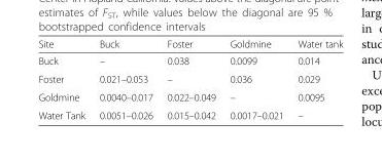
<table><thead><tr><td>Site</td><td>Buck</td><td>Foster</td><td>Goldmine</td><td>Water tank</td></tr></thead><tbody><tr><td>Buck</td><td>–</td><td>0.038</td><td>0.0099</td><td>0.014</td></tr><tr><td>Foster</td><td>0.021–0.053</td><td>–</td><td>0.036</td><td>0.029</td></tr><tr><td>Goldmine</td><td>0.0040–0.017</td><td>0.022–0.049</td><td>–</td><td>0.0095</td></tr><tr><td>Water Tank</td><td>0.0051–0.026</td><td>0.015–0.042</td><td>0.0017–0.021</td><td>–</td></tr></tbody></table>